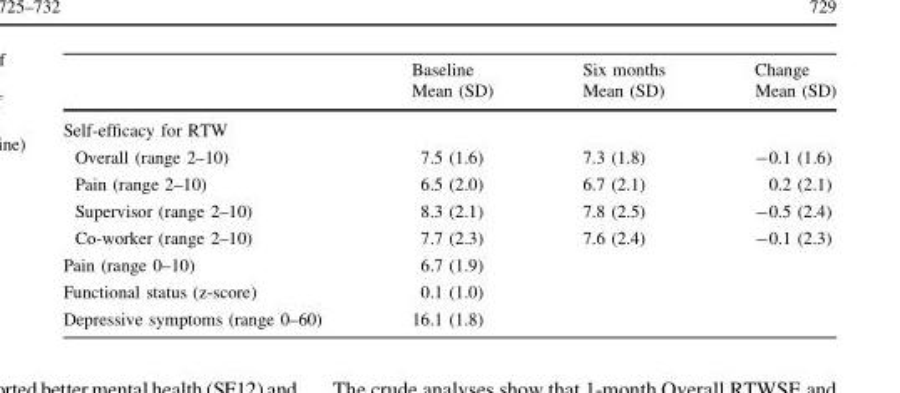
<table><thead><tr><td></td><td>Baseline Mean (SD)</td><td>Six months Mean (SD)</td><td>Change Mean (SD)</td></tr></thead><tbody><tr><td colspan="4">Self-efficacy for RTW</td></tr><tr><td>Overall (range 2–10)</td><td>7.5 (1.6)</td><td>7.3 (1.8)</td><td>-0.1 (1.6)</td></tr><tr><td>Pain (range 2–10)</td><td>6.5 (2.0)</td><td>6.7 (2.1)</td><td>0.2 (2.1)</td></tr><tr><td>Supervisor (range 2–10)</td><td>8.3 (2.1)</td><td>7.8 (2.5)</td><td>-0.5 (2.4)</td></tr><tr><td>Co-worker (range 2–10)</td><td>7.7 (2.3)</td><td>7.6 (2.4)</td><td>-0.1 (2.3)</td></tr><tr><td>Pain (range 0–10)</td><td>6.7 (1.9)</td><td></td><td></td></tr><tr><td>Functional status (z-score)</td><td>0.1 (1.0)</td><td></td><td></td></tr><tr><td>Depressive symptoms (range 0–60)</td><td>16.1 (1.8)</td><td></td><td></td></tr></tbody></table>